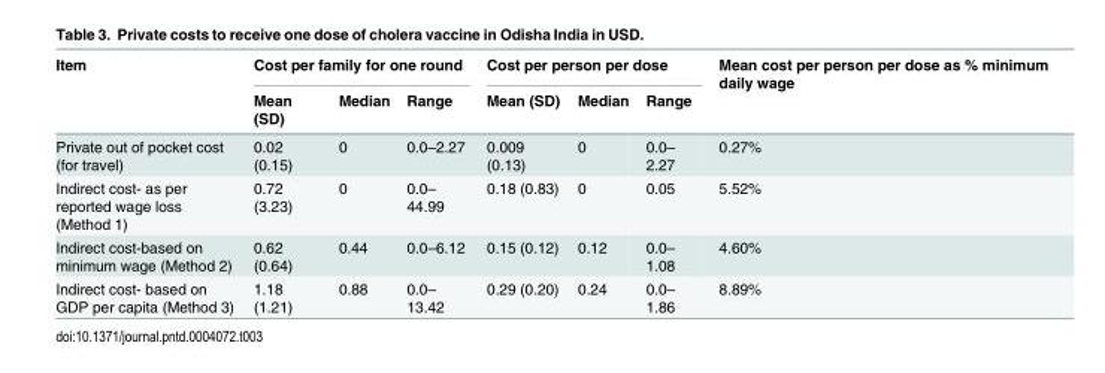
<table><thead><tr><td rowspan="2">Item</td><td colspan="3">Cost per family for one round</td><td colspan="3">Cost per person per dose</td><td rowspan="2">Mean cost per person per dose as % minimum daily wage</td></tr><tr><td>Mean (SD)</td><td>Median</td><td>Range</td><td>Mean (SD)</td><td>Median</td><td>Range</td></tr></thead><tbody><tr><td>Private out of pocket cost (for travel)</td><td>0.02 (0.15)</td><td>0</td><td>0.0–2.27</td><td>0.009 (0.13)</td><td>0</td><td>0.0– 2.27</td><td>0.27%</td></tr><tr><td>Indirect cost- as per reported wage loss (Method 1)</td><td>0.72 (3.23)</td><td>0</td><td>0.0– 44.99</td><td>0.18 (0.83)</td><td>0</td><td>0.05</td><td>5.52%</td></tr><tr><td>Indirect cost-based on minimum wage (Method 2)</td><td>0.62 (0.64)</td><td>0.44</td><td>0.0–6.12</td><td>0.15 (0.12)</td><td>0.12</td><td>0.0– 1.08</td><td>4.60%</td></tr><tr><td>Indirect cost- based on GDP per capita (Method 3)</td><td>1.18 (1.21)</td><td>0.88</td><td>0.0– 13.42</td><td>0.29 (0.20)</td><td>0.24</td><td>0.0– 1.86</td><td>8.89%</td></tr></tbody></table>